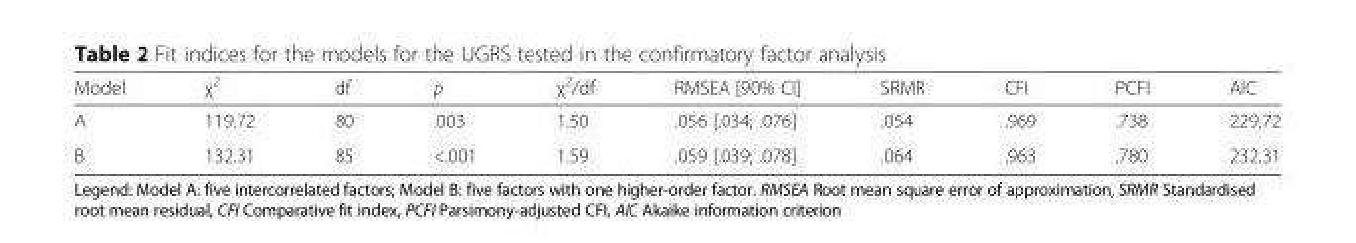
<table><thead><tr><td>Model</td><td>χ<sup>2</sup></td><td>df</td><td>p</td><td>χ<sup>2</sup>/df</td><td>RMSEA [90% CI]</td><td>SRMR</td><td>CFI</td><td>PCFI</td><td>AIC</td></tr></thead><tbody><tr><td>A</td><td>119.72</td><td>80</td><td>.003</td><td>1.50</td><td>.056 [.034; .076]</td><td>.054</td><td>.969</td><td>.738</td><td>229.72</td></tr><tr><td>B</td><td>132.31</td><td>85</td><td>&lt;.001</td><td>1.59</td><td>.059 [.039; .078]</td><td>.064</td><td>.963</td><td>.780</td><td>232.31</td></tr></tbody></table>